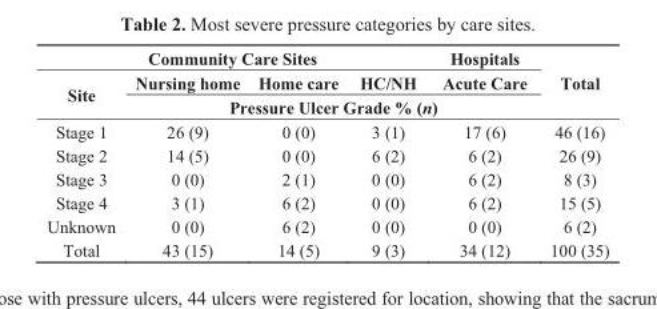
<table><thead><tr><td colspan="4">Community Care Sites</td><td rowspan="2">Hospitals Acute Care</td><td rowspan="3">Total</td></tr><tr><td rowspan="2">Site</td><td>Nursing home</td><td>Home care</td><td>HC/NH</td></tr><tr><td colspan="4">Pressure Ulcer Grade % (n)</td></tr></thead><tbody><tr><td>Stage 1</td><td>26 (9)</td><td>0 (0)</td><td>3 (1)</td><td>17 (6)</td><td>46 (16)</td></tr><tr><td>Stage 2</td><td>14 (5)</td><td>0 (0)</td><td>6 (2)</td><td>6 (2)</td><td>26 (9)</td></tr><tr><td>Stage 3</td><td>0 (0)</td><td>2 (1)</td><td>0 (0)</td><td>6 (2)</td><td>8 (3)</td></tr><tr><td>Stage 4</td><td>3 (1)</td><td>6 (2)</td><td>0 (0)</td><td>6 (2)</td><td>15 (5)</td></tr><tr><td>Unknown</td><td>0 (0)</td><td>6 (2)</td><td>0 (0)</td><td>0 (0)</td><td>6 (2)</td></tr><tr><td>Total</td><td>43 (15)</td><td>14 (5)</td><td>9 (3)</td><td>34 (12)</td><td>100 (35)</td></tr></tbody></table>